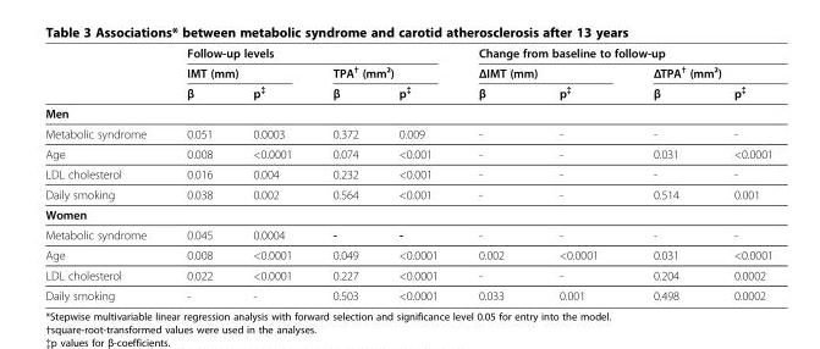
<table><thead><tr><td rowspan="3"></td><td colspan="4">Follow-up levels</td><td colspan="4">Change from baseline to follow-up</td></tr><tr><td colspan="2">IMT (mm)</td><td colspan="2">TPA<sup>†</sup> (mm²)</td><td colspan="2">ΔIMT (mm)</td><td colspan="2">ΔTPA<sup>†</sup> (mm²)</td></tr><tr><td>β</td><td>p{{</td><td>β</td><td>p{{</td><td>β</td><td>p{{</td><td>β</td><td>p{{</td></tr></thead><tbody><tr><td colspan="9">Men</td></tr><tr><td>Metabolic syndrome</td><td>0.051</td><td>0.0003</td><td>0.372</td><td>0.009</td><td>-</td><td>-</td><td>-</td><td>-</td></tr><tr><td>Age</td><td>0.008</td><td>&lt;0.0001</td><td>0.074</td><td>&lt;0.001</td><td>-</td><td>-</td><td>0.031</td><td>&lt;0.0001</td></tr><tr><td>LDL cholesterol</td><td>0.016</td><td>0.004</td><td>0.232</td><td>&lt;0.001</td><td>-</td><td>-</td><td>-</td><td>-</td></tr><tr><td>Daily smoking</td><td>0.038</td><td>0.002</td><td>0.564</td><td>&lt;0.001</td><td>-</td><td>-</td><td>0.514</td><td>0.001</td></tr><tr><td colspan="9">Women</td></tr><tr><td>Metabolic syndrome</td><td>0.045</td><td>0.0004</td><td>-</td><td>-</td><td>-</td><td>-</td><td>-</td><td>-</td></tr><tr><td>Age</td><td>0.008</td><td>&lt;0.0001</td><td>0.049</td><td>&lt;0.0001</td><td>0.002</td><td>&lt;0.0001</td><td>0.031</td><td>&lt;0.0001</td></tr><tr><td>LDL cholesterol</td><td>0.022</td><td>&lt;0.0001</td><td>0.227</td><td>&lt;0.0001</td><td>-</td><td>-</td><td>0.204</td><td>0.0002</td></tr><tr><td>Daily smoking</td><td>-</td><td>-</td><td>0.503</td><td>&lt;0.0001</td><td>0.033</td><td>0.001</td><td>0.498</td><td>0.0002</td></tr></tbody></table>